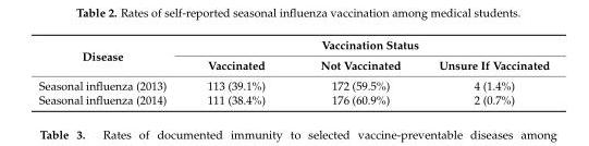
<table><thead><tr><td rowspan="2">Disease</td><td colspan="3">Vaccination Status</td></tr><tr><td>Vaccinated</td><td>Not Vaccinated</td><td>Unsure If Vaccinated</td></tr></thead><tbody><tr><td>Seasonal influenza (2013)</td><td>113 (39.1%)</td><td>172 (59.5%)</td><td>4 (1.4%)</td></tr><tr><td>Seasonal influenza (2014)</td><td>111 (38.4%)</td><td>176 (60.9%)</td><td>2 (0.7%)</td></tr></tbody></table>